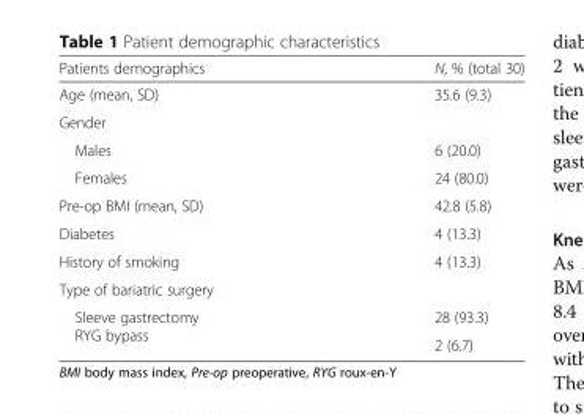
<table><thead><tr><td>Patients demographics</td><td>N, % (total 30)</td></tr></thead><tbody><tr><td>Age (mean, SD)</td><td>35.6 (9.3)</td></tr><tr><td colspan="2">Gender</td></tr><tr><td>Males</td><td>6 (20.0)</td></tr><tr><td>Females</td><td>24 (80.0)</td></tr><tr><td>Pre-op BMI (mean, SD)</td><td>42.8 (5.8)</td></tr><tr><td>Diabetes</td><td>4 (13.3)</td></tr><tr><td>History of smoking</td><td>4 (13.3)</td></tr><tr><td colspan="2">Type of bariatric surgery</td></tr><tr><td rowspan="2">Sleeve gastrectomy RYG bypass</td><td>28 (93.3)</td></tr><tr><td>2 (6.7)</td></tr></tbody></table>